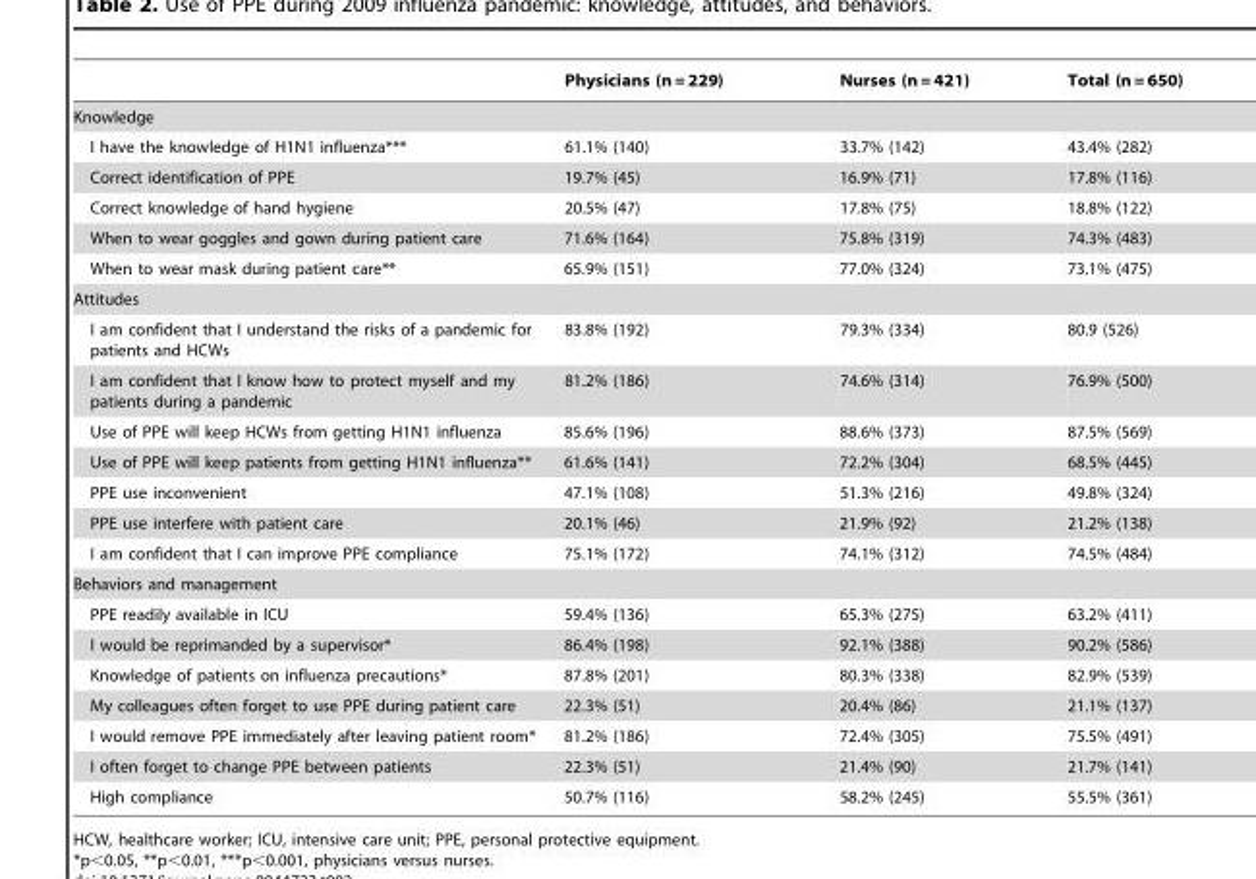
<table><thead><tr><td></td><td>Physicians (n = 229)</td><td>Nurses (n = 421)</td><td>Total (n = 650)</td></tr></thead><tbody><tr><td colspan="4">Knowledge</td></tr><tr><td>I have the knowledge of H1N1 influenza***</td><td>61.1% (140)</td><td>33.7% (142)</td><td>43.4% (282)</td></tr><tr><td>Correct identification of PPE</td><td>19.7% (45)</td><td>16.9% (71)</td><td>17.8% (116)</td></tr><tr><td>Correct knowledge of hand hygiene</td><td>20.5% (47)</td><td>17.8% (75)</td><td>18.8% (122)</td></tr><tr><td>When to wear goggles and gown during patient care</td><td>71.6% (164)</td><td>75.8% (319)</td><td>74.3% (483)</td></tr><tr><td>When to wear mask during patient care**</td><td>65.9% (151)</td><td>77.0% (324)</td><td>73.1% (475)</td></tr><tr><td colspan="4">Attitudes</td></tr><tr><td>I am confident that I understand the risks of a pandemic for patients and HCWs</td><td>83.8% (192)</td><td>79.3% (334)</td><td>80.9 (526)</td></tr><tr><td>I am confident that I know how to protect myself and my patients during a pandemic</td><td>81.2% (186)</td><td>74.6% (314)</td><td>76.9% (500)</td></tr><tr><td>Use of PPE will keep HCWs from getting H1N1 influenza</td><td>85.6% (196)</td><td>88.6% (373)</td><td>87.5% (569)</td></tr><tr><td>Use of PPE will keep patients from getting H1N1 influenza**</td><td>61.6% (141)</td><td>72.2% (304)</td><td>68.5% (445)</td></tr><tr><td>PPE use inconvenient</td><td>47.1% (108)</td><td>51.3% (216)</td><td>49.8% (324)</td></tr><tr><td>PPE use interfere with patient care</td><td>20.1% (46)</td><td>21.9% (92)</td><td>21.2% (138)</td></tr><tr><td>I am confident that I can improve PPE compliance</td><td>75.1% (172)</td><td>74.1% (312)</td><td>74.5% (484)</td></tr><tr><td colspan="4">Behaviors and management</td></tr><tr><td>PPE readily available in ICU</td><td>59.4% (136)</td><td>65.3% (275)</td><td>63.2% (411)</td></tr><tr><td>I would be reprimanded by a supervisor*</td><td>86.4% (198)</td><td>92.1% (388)</td><td>90.2% (586)</td></tr><tr><td>Knowledge of patients on influenza precautions*</td><td>87.8% (201)</td><td>80.3% (338)</td><td>82.9% (539)</td></tr><tr><td>My colleagues often forget to use PPE during patient care</td><td>22.3% (51)</td><td>20.4% (86)</td><td>21.1% (137)</td></tr><tr><td>I would remove PPE immediately after leaving patient room*</td><td>81.2% (186)</td><td>72.4% (305)</td><td>75.5% (491)</td></tr><tr><td>I often forget to change PPE between patients</td><td>22.3% (51)</td><td>21.4% (90)</td><td>21.7% (141)</td></tr><tr><td>High compliance</td><td>50.7% (116)</td><td>58.2% (245)</td><td>55.5% (361)</td></tr></tbody></table>